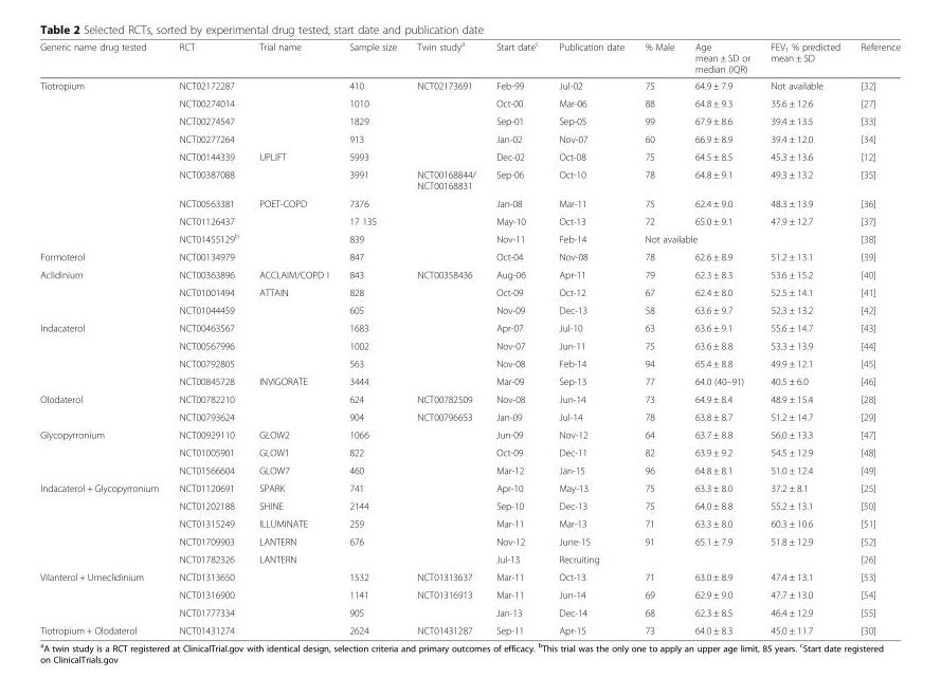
<table><thead><tr><td>Generic name drug tested</td><td>RCT</td><td>Trial name</td><td>Sample size</td><td>Twin study<sup>a</sup></td><td>Start date<sup>c</sup></td><td>Publication date</td><td>% Male</td><td>Age mean ± SD or median (IQR)</td><td>FEV<sub>1</sub> % predicted mean ± SD</td><td>Reference</td></tr></thead><tbody><tr><td rowspan="9">Tiotropium</td><td>NCT02172287</td><td></td><td>410</td><td>NCT02173691</td><td>Feb-99</td><td>Jul-02</td><td>75</td><td>64.9 ± 7.9</td><td>Not available</td><td>[32]</td></tr><tr><td>NCT00274014</td><td></td><td>1010</td><td></td><td>Oct-00</td><td>Mar-06</td><td>88</td><td>64.8 ± 9.3</td><td>35.6 ± 12.6</td><td>[27]</td></tr><tr><td>NCT00274547</td><td></td><td>1829</td><td></td><td>Sep-01</td><td>Sep-05</td><td>99</td><td>67.9 ± 8.6</td><td>39.4 ± 13.5</td><td>[33]</td></tr><tr><td>NCT00277264</td><td></td><td>913</td><td></td><td>Jan-02</td><td>Nov-07</td><td>60</td><td>66.9 ± 8.9</td><td>39.4 ± 12.0</td><td>[34]</td></tr><tr><td>NCT00144339</td><td>UPLIFT</td><td>5993</td><td></td><td>Dec-02</td><td>Oct-08</td><td>75</td><td>64.5 ± 8.5</td><td>45.3 ± 13.6</td><td>[12]</td></tr><tr><td>NCT00387088</td><td></td><td>3991</td><td>NCT00168844/ NCT00168831</td><td>Sep-06</td><td>Oct-10</td><td>78</td><td>64.8 ± 9.1</td><td>49.3 ± 13.2</td><td>[35]</td></tr><tr><td>NCT00563381</td><td>POET-COPD</td><td>7376</td><td></td><td>Jan-08</td><td>Mar-11</td><td>75</td><td>62.4 ± 9.0</td><td>48.3 ± 13.9</td><td>[36]</td></tr><tr><td>NCT01126437</td><td></td><td>17 135</td><td></td><td>May-10</td><td>Oct-13</td><td>72</td><td>65.0 ± 9.1</td><td>47.9 ± 12.7</td><td>[37]</td></tr><tr><td>NCT01455129<sup>b</sup></td><td></td><td>839</td><td></td><td>Nov-11</td><td>Feb-14</td><td colspan="3">Not available</td><td>[38]</td></tr><tr><td>Formoterol</td><td>NCT00134979</td><td></td><td>847</td><td></td><td>Oct-04</td><td>Nov-08</td><td>78</td><td>62.6 ± 8.9</td><td>51.2 ± 13.1</td><td>[39]</td></tr><tr><td rowspan="3">Aclidinium</td><td>NCT00363896</td><td>ACCLAIM/COPD I</td><td>843</td><td>NCT00358436</td><td>Aug-06</td><td>Apr-11</td><td>79</td><td>62.3 ± 8.3</td><td>53.6 ± 15.2</td><td>[40]</td></tr><tr><td>NCT01001494</td><td>ATTAIN</td><td>828</td><td></td><td>Oct-09</td><td>Oct-12</td><td>67</td><td>62.4 ± 8.0</td><td>52.5 ± 14.1</td><td>[41]</td></tr><tr><td>NCT01044459</td><td></td><td>605</td><td></td><td>Nov-09</td><td>Dec-13</td><td>58</td><td>63.6 ± 9.7</td><td>52.3 ± 13.2</td><td>[42]</td></tr><tr><td rowspan="4">Indacaterol</td><td>NCT00463567</td><td></td><td>1683</td><td></td><td>Apr-07</td><td>Jul-10</td><td>63</td><td>63.6 ± 9.1</td><td>55.6 ± 14.7</td><td>[43]</td></tr><tr><td>NCT00567996</td><td></td><td>1002</td><td></td><td>Nov-07</td><td>Jun-11</td><td>75</td><td>63.6 ± 8.8</td><td>53.3 ± 13.9</td><td>[44]</td></tr><tr><td>NCT00792805</td><td></td><td>563</td><td></td><td>Nov-08</td><td>Feb-14</td><td>94</td><td>65.4 ± 8.8</td><td>49.9 ± 12.1</td><td>[45]</td></tr><tr><td>NCT00845728</td><td>INVIGORATE</td><td>3444</td><td></td><td>Mar-09</td><td>Sep-13</td><td>77</td><td>64.0 (40–91)</td><td>40.5 ± 6.0</td><td>[46]</td></tr><tr><td rowspan="2">Olodaterol</td><td>NCT00782210</td><td></td><td>624</td><td>NCT00782509</td><td>Nov-08</td><td>Jun-14</td><td>73</td><td>64.9 ± 8.4</td><td>48.9 ± 15.4</td><td>[28]</td></tr><tr><td>NCT00793624</td><td></td><td>904</td><td>NCT00796653</td><td>Jan-09</td><td>Jul-14</td><td>78</td><td>63.8 ± 8.7</td><td>51.2 ± 14.7</td><td>[29]</td></tr><tr><td rowspan="3">Glycopyrronium</td><td>NCT00929110</td><td>GLOW2</td><td>1066</td><td></td><td>Jun-09</td><td>Nov-12</td><td>64</td><td>63.7 ± 8.8</td><td>56.0 ± 13.3</td><td>[47]</td></tr><tr><td>NCT01005901</td><td>GLOW1</td><td>822</td><td></td><td>Oct-09</td><td>Dec-11</td><td>82</td><td>63.9 ± 9.2</td><td>54.5 ± 12.9</td><td>[48]</td></tr><tr><td>NCT01566604</td><td>GLOW7</td><td>460</td><td></td><td>Mar-12</td><td>Jan-15</td><td>96</td><td>64.8 ± 8.1</td><td>51.0 ± 12.4</td><td>[49]</td></tr><tr><td rowspan="5">Indacaterol + Glycopyrronium</td><td>NCT01120691</td><td>SPARK</td><td>741</td><td></td><td>Apr-10</td><td>May-13</td><td>75</td><td>63.3 ± 8.0</td><td>37.2 ± 8.1</td><td>[25]</td></tr><tr><td>NCT01202188</td><td>SHINE</td><td>2144</td><td></td><td>Sep-10</td><td>Dec-13</td><td>75</td><td>64.0 ± 8.8</td><td>55.2 ± 13.1</td><td>[50]</td></tr><tr><td>NCT01315249</td><td>ILLUMINATE</td><td>259</td><td></td><td>Mar-11</td><td>Mar-13</td><td>71</td><td>63.3 ± 8.0</td><td>60.3 ± 10.6</td><td>[51]</td></tr><tr><td>NCT01709903</td><td>LANTERN</td><td>676</td><td></td><td>Nov-12</td><td>June-15</td><td>91</td><td>65.1 ± 7.9</td><td>51.8 ± 12.9</td><td>[52]</td></tr><tr><td>NCT01782326</td><td>LANTERN</td><td></td><td></td><td>Jul-13</td><td>Recruiting</td><td></td><td></td><td></td><td>[26]</td></tr><tr><td rowspan="3">Vilanterol + Umeclidinium</td><td>NCT01313650</td><td></td><td>1532</td><td>NCT01313637</td><td>Mar-11</td><td>Oct-13</td><td>71</td><td>63.0 ± 8.9</td><td>47.4 ± 13.1</td><td>[53]</td></tr><tr><td>NCT01316900</td><td></td><td>1141</td><td>NCT01316913</td><td>Mar-11</td><td>Jun-14</td><td>69</td><td>62.9 ± 9.0</td><td>47.7 ± 13.0</td><td>[54]</td></tr><tr><td>NCT01777334</td><td></td><td>905</td><td></td><td>Jan-13</td><td>Dec-14</td><td>68</td><td>62.3 ± 8.5</td><td>46.4 ± 12.9</td><td>[55]</td></tr><tr><td>Tiotropium + Olodaterol</td><td>NCT01431274</td><td></td><td>2624</td><td>NCT01431287</td><td>Sep-11</td><td>Apr-15</td><td>73</td><td>64.0 ± 8.3</td><td>45.0 ± 11.7</td><td>[30]</td></tr></tbody></table>